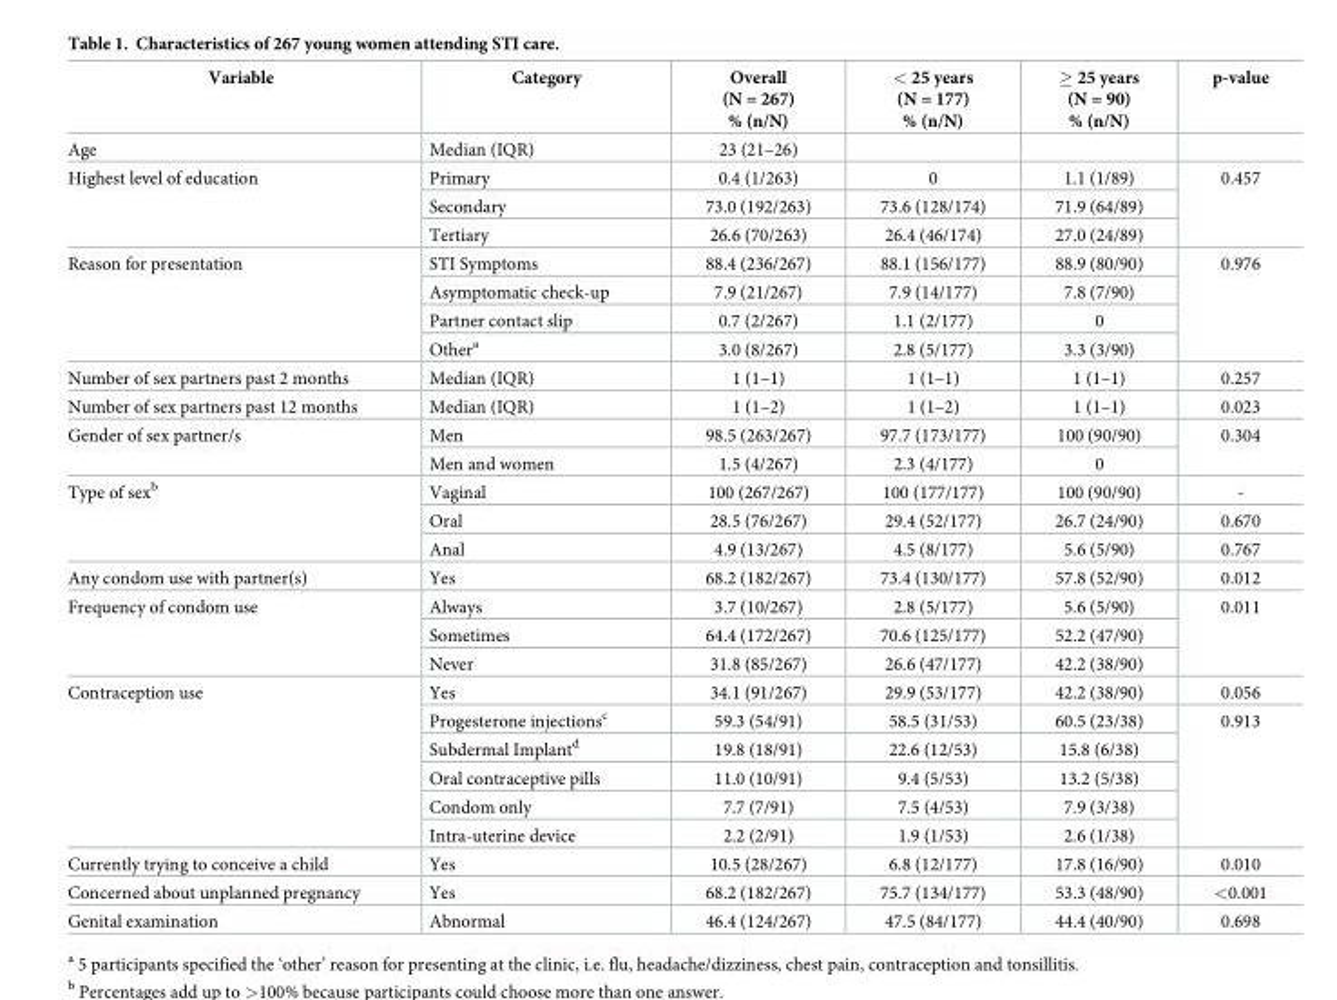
<table><thead><tr><td>Variable</td><td>Category</td><td>Overall (N = 267) % (n/N)</td><td>&lt; 25 years (N = 177) % (n/N)</td><td>≥ 25 years (N = 90) % (n/N)</td><td>p-value</td></tr></thead><tbody><tr><td>Age</td><td>Median (IQR)</td><td>23 (21–26)</td><td></td><td></td><td></td></tr><tr><td rowspan="3">Highest level of education</td><td>Primary</td><td>0.4 (1/263)</td><td>0</td><td>1.1 (1/89)</td><td rowspan="3">0.457</td></tr><tr><td>Secondary</td><td>73.0 (192/263)</td><td>73.6 (128/174)</td><td>71.9 (64/89)</td></tr><tr><td>Tertiary</td><td>26.6 (70/263)</td><td>26.4 (46/174)</td><td>27.0 (24/89)</td></tr><tr><td rowspan="4">Reason for presentation</td><td>STI Symptoms</td><td>88.4 (236/267)</td><td>88.1 (156/177)</td><td>88.9 (80/90)</td><td rowspan="4">0.976</td></tr><tr><td>Asymptomatic check-up</td><td>7.9 (21/267)</td><td>7.9 (14/177)</td><td>7.8 (7/90)</td></tr><tr><td>Partner contact slip</td><td>0.7 (2/267)</td><td>1.1 (2/177)</td><td>0</td></tr><tr><td>Other<sup>a</sup></td><td>3.0 (8/267)</td><td>2.8 (5/177)</td><td>3.3 (3/90)</td></tr><tr><td>Number of sex partners past 2 months</td><td>Median (IQR)</td><td>1 (1–1)</td><td>1 (1–1)</td><td>1 (1–1)</td><td>0.257</td></tr><tr><td>Number of sex partners past 12 months</td><td>Median (IQR)</td><td>1 (1–2)</td><td>1 (1–2)</td><td>1 (1–1)</td><td>0.023</td></tr><tr><td rowspan="2">Gender of sex partner/s</td><td>Men</td><td>98.5 (263/267)</td><td>97.7 (173/177)</td><td>100 (90/90)</td><td rowspan="2">0.304</td></tr><tr><td>Men and women</td><td>1.5 (4/267)</td><td>2.3 (4/177)</td><td>0</td></tr><tr><td rowspan="3">Type of sex<sup>b</sup></td><td>Vaginal</td><td>100 (267/267)</td><td>100 (177/177)</td><td>100 (90/90)</td><td>-</td></tr><tr><td>Oral</td><td>28.5 (76/267)</td><td>29.4 (52/177)</td><td>26.7 (24/90)</td><td>0.670</td></tr><tr><td>Anal</td><td>4.9 (13/267)</td><td>4.5 (8/177)</td><td>5.6 (5/90)</td><td>0.767</td></tr><tr><td>Any condom use with partner(s)</td><td>Yes</td><td>68.2 (182/267)</td><td>73.4 (130/177)</td><td>57.8 (52/90)</td><td>0.012</td></tr><tr><td rowspan="3">Frequency of condom use</td><td>Always</td><td>3.7 (10/267)</td><td>2.8 (5/177)</td><td>5.6 (5/90)</td><td rowspan="3">0.011</td></tr><tr><td>Sometimes</td><td>64.4 (172/267)</td><td>70.6 (125/177)</td><td>52.2 (47/90)</td></tr><tr><td>Never</td><td>31.8 (85/267)</td><td>26.6 (47/177)</td><td>42.2 (38/90)</td></tr><tr><td rowspan="6">Contraception use</td><td>Yes</td><td>34.1 (91/267)</td><td>29.9 (53/177)</td><td>42.2 (38/90)</td><td>0.056</td></tr><tr><td>Progesterone injections<sup>c</sup></td><td>59.3 (54/91)</td><td>58.5 (31/53)</td><td>60.5 (23/38)</td><td rowspan="5">0.913</td></tr><tr><td>Subdermal Implant<sup>d</sup></td><td>19.8 (18/91)</td><td>22.6 (12/53)</td><td>15.8 (6/38)</td></tr><tr><td>Oral contraceptive pills</td><td>11.0 (10/91)</td><td>9.4 (5/53)</td><td>13.2 (5/38)</td></tr><tr><td>Condom only</td><td>7.7 (7/91)</td><td>7.5 (4/53)</td><td>7.9 (3/38)</td></tr><tr><td>Intra-uterine device</td><td>2.2 (2/91)</td><td>1.9 (1/53)</td><td>2.6 (1/38)</td></tr><tr><td>Currently trying to conceive a child</td><td>Yes</td><td>10.5 (28/267)</td><td>6.8 (12/177)</td><td>17.8 (16/90)</td><td>0.010</td></tr><tr><td>Concerned about unplanned pregnancy</td><td>Yes</td><td>68.2 (182/267)</td><td>75.7 (134/177)</td><td>53.3 (48/90)</td><td>&lt;0.001</td></tr><tr><td>Genital examination</td><td>Abnormal</td><td>46.4 (124/267)</td><td>47.5 (84/177)</td><td>44.4 (40/90)</td><td>0.698</td></tr></tbody></table>